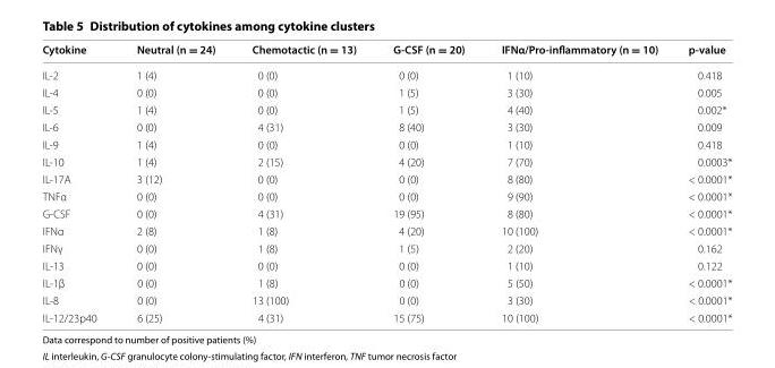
<table><thead><tr><td>Cytokine</td><td>Neutral (n = 24)</td><td>Chemotactic (n = 13)</td><td>G-CSF (n = 20)</td><td>IFNα/Pro-inflammatory (n = 10)</td><td>p-value</td></tr></thead><tbody><tr><td>IL‑2</td><td>1 (4)</td><td>0 (0)</td><td>0 (0)</td><td>1 (10)</td><td>0.418</td></tr><tr><td>IL‑4</td><td>0 (0)</td><td>0 (0)</td><td>1 (5)</td><td>3 (30)</td><td>0.005</td></tr><tr><td>IL‑5</td><td>1 (4)</td><td>0 (0)</td><td>1 (5)</td><td>4 (40)</td><td>0.002*</td></tr><tr><td>IL‑6</td><td>0 (0)</td><td>4 (31)</td><td>8 (40)</td><td>3 (30)</td><td>0.009</td></tr><tr><td>IL‑9</td><td>1 (4)</td><td>0 (0)</td><td>0 (0)</td><td>1 (10)</td><td>0.418</td></tr><tr><td>IL‑10</td><td>1 (4)</td><td>2 (15)</td><td>4 (20)</td><td>7 (70)</td><td>0.0003*</td></tr><tr><td>IL‑17A</td><td>3 (12)</td><td>0 (0)</td><td>0 (0)</td><td>8 (80)</td><td>&lt; 0.0001*</td></tr><tr><td>TNFα</td><td>0 (0)</td><td>0 (0)</td><td>0 (0)</td><td>9 (90)</td><td>&lt; 0.0001*</td></tr><tr><td>G‑CSF</td><td>0 (0)</td><td>4 (31)</td><td>19 (95)</td><td>8 (80)</td><td>&lt; 0.0001*</td></tr><tr><td>IFNα</td><td>2 (8)</td><td>1 (8)</td><td>4 (20)</td><td>10 (100)</td><td>&lt; 0.0001*</td></tr><tr><td>IFNγ</td><td>0 (0)</td><td>1 (8)</td><td>1 (5)</td><td>2 (20)</td><td>0.162</td></tr><tr><td>IL‑13</td><td>0 (0)</td><td>0 (0)</td><td>0 (0)</td><td>1 (10)</td><td>0.122</td></tr><tr><td>IL‑1β</td><td>0 (0)</td><td>1 (8)</td><td>0 (0)</td><td>5 (50)</td><td>&lt; 0.0001*</td></tr><tr><td>IL‑8</td><td>0 (0)</td><td>13 (100)</td><td>0 (0)</td><td>3 (30)</td><td>&lt; 0.0001*</td></tr><tr><td>IL‑12/23p40</td><td>6 (25)</td><td>4 (31)</td><td>15 (75)</td><td>10 (100)</td><td>&lt; 0.0001*</td></tr></tbody></table>